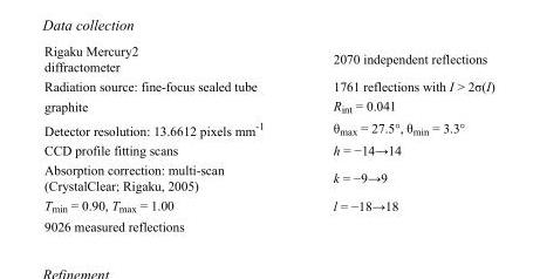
<table><tbody><tr><td>Rigaku Mercury2 diffractometer</td><td>2070 independent reflections</td></tr><tr><td>Radiation source: fine-focus sealed tube</td><td>1761 reflections with I &gt; 2σ(I)</td></tr><tr><td>graphite</td><td>R<sub>int</sub> = 0.041</td></tr><tr><td>Detector resolution: 13.6612 pixels mm<sup>-1</sup></td><td>θ<sub>max</sub> = 27.5°, θ<sub>min</sub> = 3.3°</td></tr><tr><td>CCD profile fitting scans</td><td>h = −14→14</td></tr><tr><td>Absorption correction: multi-scan (CrystalClear; Rigaku, 2005)</td><td>k = −9→9</td></tr><tr><td>T<sub>min</sub> = 0.90, T<sub>max</sub> = 1.00</td><td>l = −18→18</td></tr><tr><td>9026 measured reflections</td><td></td></tr></tbody></table>